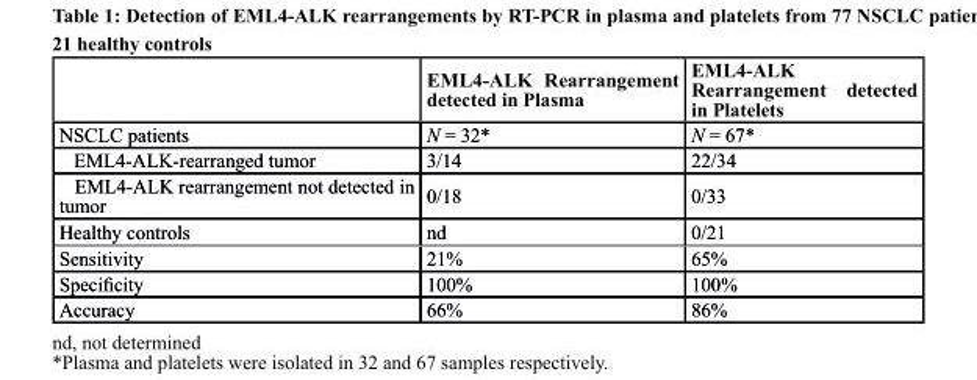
<table><thead><tr><td></td><td>EML4-ALK rearrangement detected in Plasma</td><td>EML4-ALK rearrangement detected in Platelets</td></tr></thead><tbody><tr><td>NSCLC patients</td><td>N = 32*</td><td>N = 67*</td></tr><tr><td>EML4-ALK-rearranged tumor</td><td>3/14</td><td>22/34</td></tr><tr><td>EML4-ALK rearrangement not detected in tumor</td><td>0/18</td><td>0/33</td></tr><tr><td>Healthy controls</td><td>nd</td><td>0/21</td></tr><tr><td>Sensitivity</td><td>21%</td><td>65%</td></tr><tr><td>Specificity</td><td>100%</td><td>100%</td></tr><tr><td>Accuracy</td><td>66%</td><td>86%</td></tr></tbody></table>